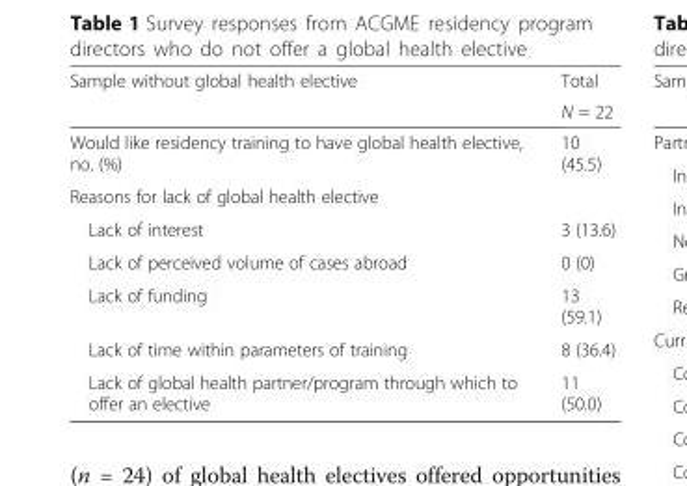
<table><thead><tr><td rowspan="2">Sample without global health elective</td><td rowspan="2">Total N = 22</td></tr><tr></tr></thead><tbody><tr><td>Would like residency training to have global health elective, no. (%)</td><td>10 (45.5)</td></tr><tr><td colspan="2">Reasons for lack of global health elective</td></tr><tr><td>Lack of interest</td><td>3 (13.6)</td></tr><tr><td>Lack of perceived volume of cases abroad</td><td>0 (0)</td></tr><tr><td>Lack of funding</td><td>13 (59.1)</td></tr><tr><td>Lack of time within parameters of training</td><td>8 (36.4)</td></tr><tr><td>Lack of global health partner/program through which to offer an elective</td><td>11 (50.0)</td></tr></tbody></table>